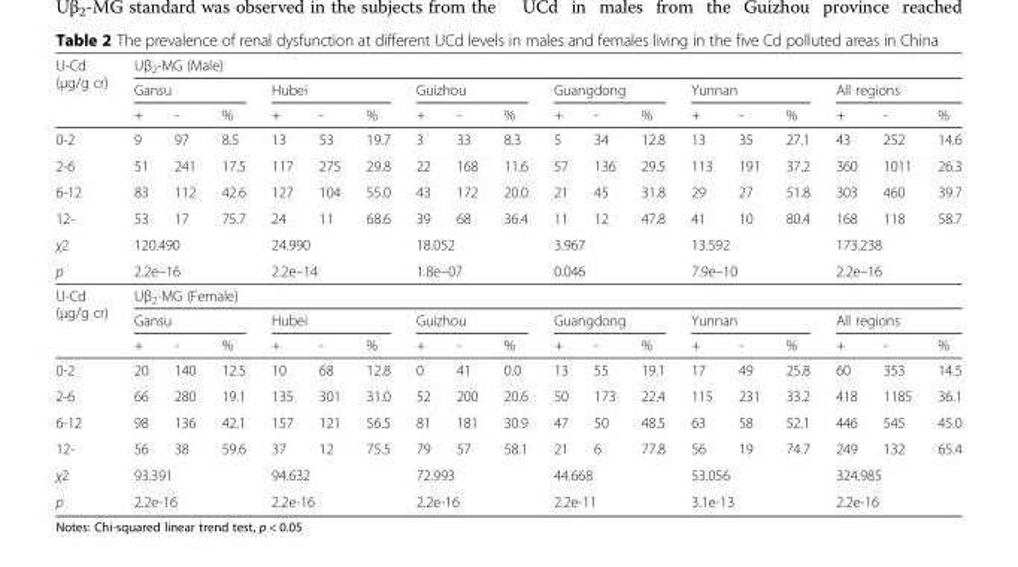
<table><thead><tr><td rowspan="3">U-Cd (μg/g cr)</td><td colspan="18">Uβ<sub>2</sub>-MG (Male)</td></tr><tr><td colspan="3">Gansu</td><td colspan="3">Hubei</td><td colspan="3">Guizhou</td><td colspan="3">Guangdong</td><td colspan="3">Yunnan</td><td colspan="3">All regions</td></tr><tr><td>+</td><td>-</td><td>%</td><td>+</td><td>-</td><td>%</td><td>+</td><td>-</td><td>%</td><td>+</td><td>-</td><td>%</td><td>+</td><td>-</td><td>%</td><td>+</td><td>-</td><td>%</td></tr></thead><tbody><tr><td>0-2</td><td>9</td><td>97</td><td>8.5</td><td>13</td><td>53</td><td>19.7</td><td>3</td><td>33</td><td>8.3</td><td>5</td><td>34</td><td>12.8</td><td>13</td><td>35</td><td>27.1</td><td>43</td><td>252</td><td>14.6</td></tr><tr><td>2-6</td><td>51</td><td>241</td><td>17.5</td><td>117</td><td>275</td><td>29.8</td><td>22</td><td>168</td><td>11.6</td><td>57</td><td>136</td><td>29.5</td><td>113</td><td>191</td><td>37.2</td><td>360</td><td>1011</td><td>26.3</td></tr><tr><td>6-12</td><td>83</td><td>112</td><td>42.6</td><td>127</td><td>104</td><td>55.0</td><td>43</td><td>172</td><td>20.0</td><td>21</td><td>45</td><td>31.8</td><td>29</td><td>27</td><td>51.8</td><td>303</td><td>460</td><td>39.7</td></tr><tr><td>12-</td><td>53</td><td>17</td><td>75.7</td><td>24</td><td>11</td><td>68.6</td><td>39</td><td>68</td><td>36.4</td><td>11</td><td>12</td><td>47.8</td><td>41</td><td>10</td><td>80.4</td><td>168</td><td>118</td><td>58.7</td></tr><tr><td>χ2</td><td colspan="3">120.490</td><td colspan="3">24.990</td><td colspan="3">18.052</td><td colspan="3">3.967</td><td colspan="3">13.592</td><td colspan="3">173.238</td></tr><tr><td>p</td><td colspan="3">2.2e–16</td><td colspan="3">2.2e–14</td><td colspan="3">1.8e–07</td><td colspan="3">0.046</td><td colspan="3">7.9e–10</td><td colspan="3">2.2e–16</td></tr><tr><td rowspan="3">U-Cd (μg/g cr)</td><td colspan="18">Uβ<sub>2</sub>-MG (Female)</td></tr><tr><td colspan="3">Gansu</td><td colspan="3">Hubei</td><td colspan="3">Guizhou</td><td colspan="3">Guangdong</td><td colspan="3">Yunnan</td><td colspan="3">All regions</td></tr><tr><td>+</td><td>-</td><td>%</td><td>+</td><td>-</td><td>%</td><td>+</td><td>-</td><td>%</td><td>+</td><td>-</td><td>%</td><td>+</td><td>-</td><td>%</td><td>+</td><td>-</td><td>%</td></tr><tr><td>0-2</td><td>20</td><td>140</td><td>12.5</td><td>10</td><td>68</td><td>12.8</td><td>0</td><td>41</td><td>0.0</td><td>13</td><td>55</td><td>19.1</td><td>17</td><td>49</td><td>25.8</td><td>60</td><td>353</td><td>14.5</td></tr><tr><td>2-6</td><td>66</td><td>280</td><td>19.1</td><td>135</td><td>301</td><td>31.0</td><td>52</td><td>200</td><td>20.6</td><td>50</td><td>173</td><td>22.4</td><td>115</td><td>231</td><td>33.2</td><td>418</td><td>1185</td><td>36.1</td></tr><tr><td>6-12</td><td>98</td><td>136</td><td>42.1</td><td>157</td><td>121</td><td>56.5</td><td>81</td><td>181</td><td>30.9</td><td>47</td><td>50</td><td>48.5</td><td>63</td><td>58</td><td>52.1</td><td>446</td><td>545</td><td>45.0</td></tr><tr><td>12-</td><td>56</td><td>38</td><td>59.6</td><td>37</td><td>12</td><td>75.5</td><td>79</td><td>57</td><td>58.1</td><td>21</td><td>6</td><td>77.8</td><td>56</td><td>19</td><td>74.7</td><td>249</td><td>132</td><td>65.4</td></tr><tr><td>χ2</td><td colspan="3">93.391</td><td colspan="3">94.632</td><td colspan="3">72.993</td><td colspan="3">44.668</td><td colspan="3">53.056</td><td colspan="3">324.985</td></tr><tr><td>p</td><td colspan="3">2.2e-16</td><td colspan="3">2.2e-16</td><td colspan="3">2.2e-16</td><td colspan="3">2.2e-11</td><td colspan="3">3.1e-13</td><td colspan="3">2.2e-16</td></tr></tbody></table>